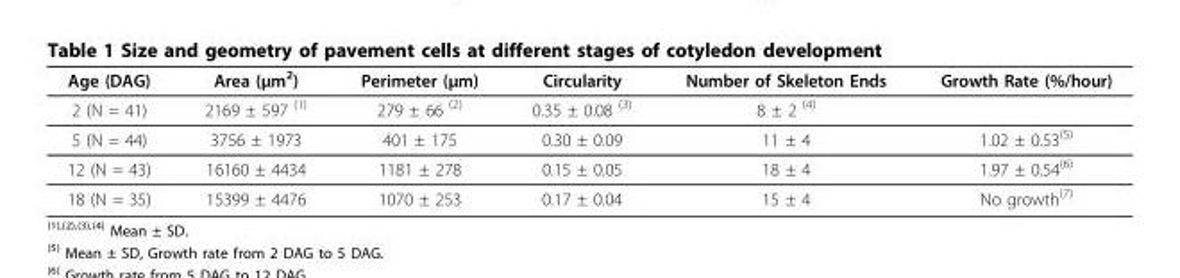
<table><thead><tr><td>Age (DAG)</td><td>Area (μm<sup>2</sup>)</td><td>Perimeter (μm)</td><td>Circularity</td><td>Number of Skeleton Ends</td><td>Growth Rate (%/hour)</td></tr></thead><tbody><tr><td>2 (N = 41)</td><td>2169 ± 597 <sup>(1)</sup></td><td>279 ± 66 <sup>(2)</sup></td><td>0.35 ± 0.08 <sup>(3)</sup></td><td>8 ± 2 <sup>(4)</sup></td><td></td></tr><tr><td>5 (N = 44)</td><td>3756 ± 1973</td><td>401 ± 175</td><td>0.30 ± 0.09</td><td>11 ± 4</td><td>1.02 ± 0.53<sup>(5)</sup></td></tr><tr><td>12 (N = 43)</td><td>16160 ± 4434</td><td>1181 ± 278</td><td>0.15 ± 0.05</td><td>18 ± 4</td><td>1.97 ± 0.54<sup>(6)</sup></td></tr><tr><td>18 (N = 35)</td><td>15399 ± 4476</td><td>1070 ± 253</td><td>0.17 ± 0.04</td><td>15 ± 4</td><td>No growth<sup>(7)</sup></td></tr></tbody></table>